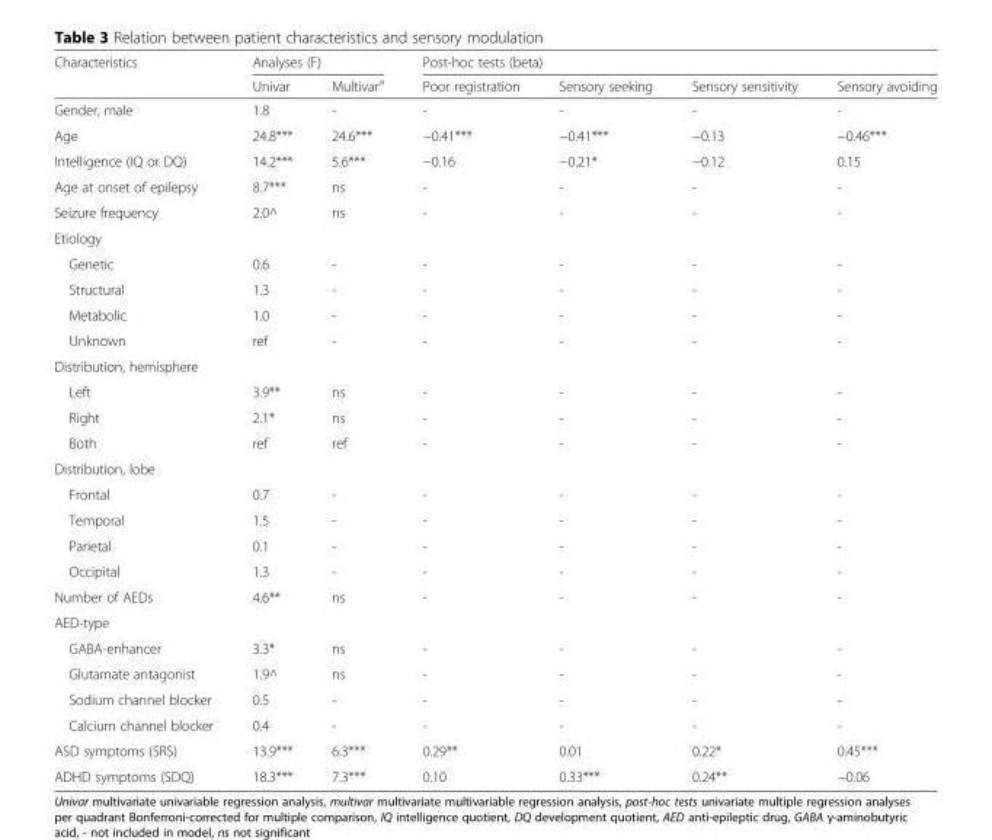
<table><thead><tr><td rowspan="2">Characteristics</td><td colspan="2">Analyses (F)</td><td colspan="4">Post-hoc tests (beta)</td></tr><tr><td>Univar</td><td>Multivar<sup>a</sup></td><td>Poor registration</td><td>Sensory seeking</td><td>Sensory sensitivity</td><td>Sensory avoiding</td></tr></thead><tbody><tr><td>Gender, male</td><td>1.8</td><td>-</td><td>-</td><td>-</td><td>-</td><td>-</td></tr><tr><td>Age</td><td>24.8***</td><td>24.6***</td><td>−0.41***</td><td>−0.41***</td><td>−0.13</td><td>−0.46***</td></tr><tr><td>Intelligence (IQ or DQ)</td><td>14.2***</td><td>5.6***</td><td>−0.16</td><td>−0.21*</td><td>−0.12</td><td>0.15</td></tr><tr><td>Age at onset of epilepsy</td><td>8.7***</td><td>ns</td><td>-</td><td>-</td><td>-</td><td>-</td></tr><tr><td>Seizure frequency</td><td>2.0^</td><td>ns</td><td>-</td><td>-</td><td>-</td><td>-</td></tr><tr><td colspan="7">Etiology</td></tr><tr><td>Genetic</td><td>0.6</td><td>-</td><td>-</td><td>-</td><td>-</td><td>-</td></tr><tr><td>Structural</td><td>1.3</td><td>-</td><td>-</td><td>-</td><td>-</td><td>-</td></tr><tr><td>Metabolic</td><td>1.0</td><td>-</td><td>-</td><td>-</td><td>-</td><td>-</td></tr><tr><td>Unknown</td><td>ref</td><td>-</td><td>-</td><td>-</td><td>-</td><td>-</td></tr><tr><td colspan="7">Distribution, hemisphere</td></tr><tr><td>Left</td><td>3.9**</td><td>ns</td><td>-</td><td>-</td><td>-</td><td>-</td></tr><tr><td>Right</td><td>2.1*</td><td>ns</td><td>-</td><td>-</td><td>-</td><td>-</td></tr><tr><td>Both</td><td>ref</td><td>ref</td><td>-</td><td>-</td><td>-</td><td>-</td></tr><tr><td colspan="7">Distribution, lobe</td></tr><tr><td>Frontal</td><td>0.7</td><td>-</td><td>-</td><td>-</td><td>-</td><td>-</td></tr><tr><td>Temporal</td><td>1.5</td><td>-</td><td>-</td><td>-</td><td>-</td><td>-</td></tr><tr><td>Parietal</td><td>0.1</td><td>-</td><td>-</td><td>-</td><td>-</td><td>-</td></tr><tr><td>Occipital</td><td>1.3</td><td>-</td><td>-</td><td>-</td><td>-</td><td>-</td></tr><tr><td>Number of AEDs</td><td>4.6**</td><td>ns</td><td>-</td><td>-</td><td>-</td><td>-</td></tr><tr><td colspan="7">AED-type</td></tr><tr><td>GABA-enhancer</td><td>3.3*</td><td>ns</td><td>-</td><td>-</td><td>-</td><td>-</td></tr><tr><td>Glutamate antagonist</td><td>1.9^</td><td>ns</td><td>-</td><td>-</td><td>-</td><td>-</td></tr><tr><td>Sodium channel blocker</td><td>0.5</td><td>-</td><td>-</td><td>-</td><td>-</td><td>-</td></tr><tr><td>Calcium channel blocker</td><td>0.4</td><td>-</td><td>-</td><td>-</td><td>-</td><td>-</td></tr><tr><td>ASD symptoms (SRS)</td><td>13.9***</td><td>6.3***</td><td>0.29**</td><td>0.01</td><td>0.22*</td><td>0.45***</td></tr><tr><td>ADHD symptoms (SDQ)</td><td>18.3***</td><td>7.3***</td><td>0.10</td><td>0.33***</td><td>0.24**</td><td>−0.06</td></tr></tbody></table>